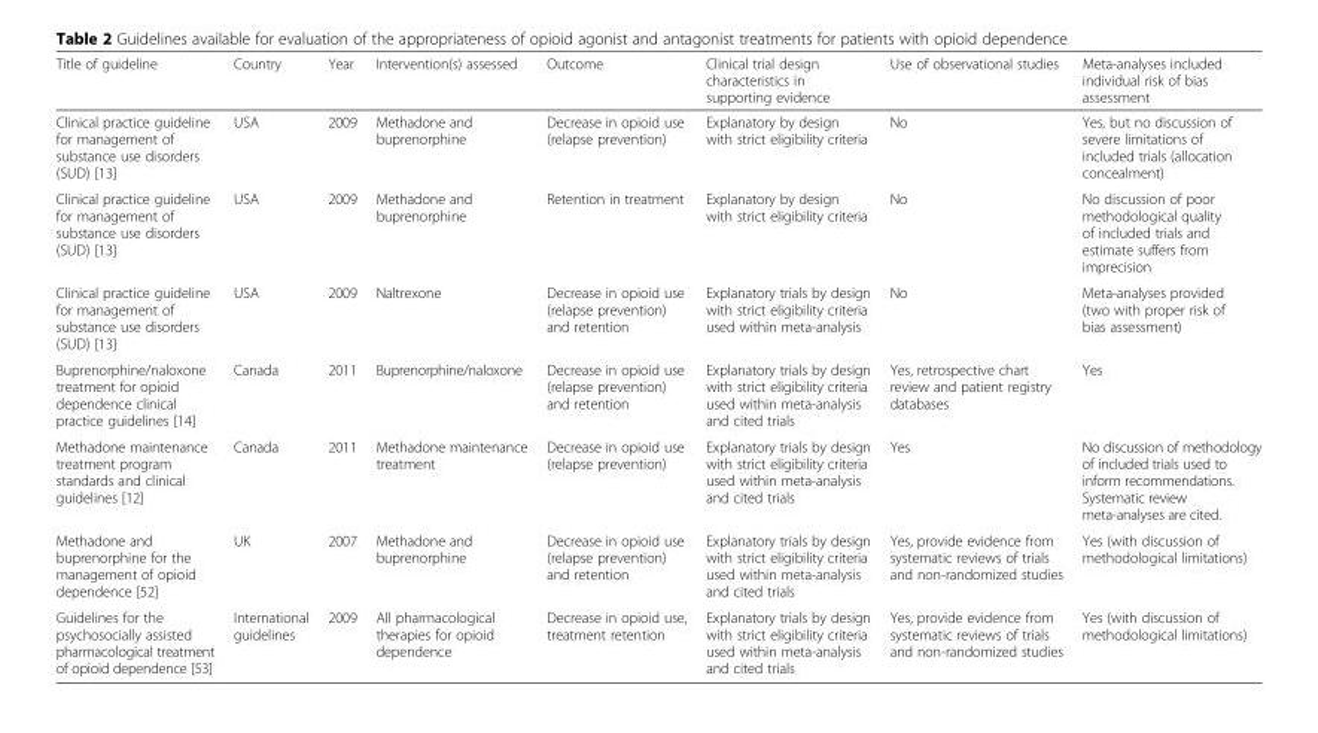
<table><thead><tr><td>Title of guideline</td><td>Country</td><td>Year</td><td>Intervention(s) assessed</td><td>Outcome</td><td>Clinical trial design characteristics in supporting evidence</td><td>Use of observational studies</td><td>Meta-analyses included individual risk of bias assessment</td></tr></thead><tbody><tr><td>Clinical practice guideline for management of substance use disorders (SUD) [13]</td><td>USA</td><td>2009</td><td>Methadone and buprenorphine</td><td>Decrease in opioid use (relapse prevention)</td><td>Explanatory by design with strict eligibility criteria</td><td>No</td><td>Yes, but no discussion of severe limitations of included trials (allocation concealment)</td></tr><tr><td>Clinical practice guideline for management of substance use disorders (SUD) [13]</td><td>USA</td><td>2009</td><td>Methadone and buprenorphine</td><td>Retention in treatment</td><td>Explanatory by design with strict eligibility criteria</td><td>No</td><td>No discussion of poor methodological quality of included trials and estimate suffers from imprecision</td></tr><tr><td>Clinical practice guideline for management of substance use disorders (SUD) [13]</td><td>USA</td><td>2009</td><td>Naltrexone</td><td>Decrease in opioid use (relapse prevention) and retention</td><td>Explanatory trials by design with strict eligibility criteria used within meta-analysis</td><td>No</td><td>Meta-analyses provided (two with proper risk of bias assessment)</td></tr><tr><td>Buprenorphine/naloxone treatment for opioid dependence clinical practice guidelines [14]</td><td>Canada</td><td>2011</td><td>Buprenorphine/naloxone</td><td>Decrease in opioid use (relapse prevention) and retention</td><td>Explanatory trials by design with strict eligibility criteria used within meta-analysis and cited trials</td><td>Yes, retrospective chart review and patient registry databases</td><td>Yes</td></tr><tr><td>Methadone maintenance treatment program standards and clinical guidelines [12]</td><td>Canada</td><td>2011</td><td>Methadone maintenance treatment</td><td>Decrease in opioid use (relapse prevention)</td><td>Explanatory trials by design with strict eligibility criteria used within meta-analysis and cited trials</td><td>Yes</td><td>No discussion of methodology of included trials used to inform recommendations. Systematic review meta-analyses are cited.</td></tr><tr><td>Methadone and buprenorphine for the management of opioid dependence [52]</td><td>UK</td><td>2007</td><td>Methadone and buprenorphine</td><td>Decrease in opioid use (relapse prevention) and retention</td><td>Explanatory trials by design with strict eligibility criteria used within meta-analysis and cited trials</td><td>Yes, provide evidence from systematic reviews of trials and non-randomized studies</td><td>Yes (with discussion of methodological limitations)</td></tr><tr><td>Guidelines for the psychosocially assisted pharmacological treatment of opioid dependence [53]</td><td>International guidelines</td><td>2009</td><td>All pharmacological therapies for opioid dependence</td><td>Decrease in opioid use, treatment retention</td><td>Explanatory trials by design with strict eligibility criteria used within meta-analysis and cited trials</td><td>Yes, provide evidence from systematic reviews of trials and non-randomized studies</td><td>Yes (with discussion of methodological limitations)</td></tr></tbody></table>